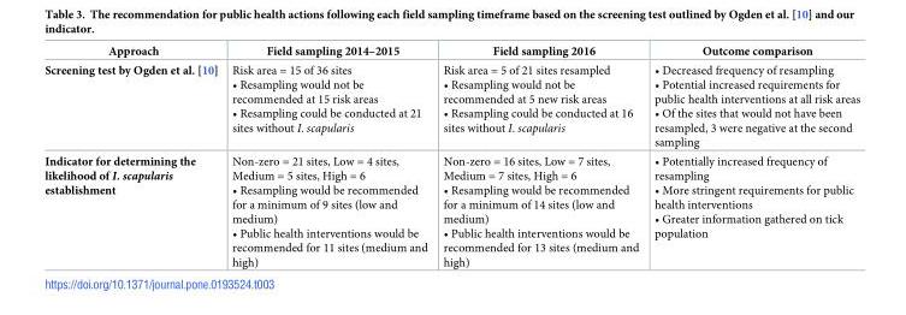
<table><thead><tr><td>Approach</td><td>Field sampling 2014–2015</td><td>Field sampling 2016</td><td>Outcome comparison</td></tr></thead><tbody><tr><td>Screening test by Ogden et al. [10]</td><td>Risk area = 15 of 36 sites • Resampling would not be recommended at 15 risk areas • Resampling could be conducted at 21 sites without I. scapularis</td><td>Risk area = 5 of 21 sites resampled • Resampling would not be recommended at 5 new risk areas • Resampling could be conducted at 16 sites without I. scapularis</td><td>• Decreased frequency of resampling • Potential increased requirements for public health interventions at all risk areas • Of the sites that would not have been resampled, 3 were negative at the second sampling</td></tr><tr><td>Indicator for determining the likelihood of I. scapularis establishment</td><td>Non-zero = 21 sites, Low = 4 sites, Medium = 5 sites, High = 6 • Resampling would be recommended for a minimum of 9 sites (low and medium) • Public health interventions would be recommended for 11 sites (medium and high)</td><td>Non-zero = 16 sites, Low = 7 sites, Medium = 7 sites, High = 6 • Resampling would be recommended for a minimum of 14 sites (low and medium) • Public health interventions would be recommended for 13 sites (medium and high)</td><td>• Potentially increased frequency of resampling • More stringent requirements for public health interventions • Greater information gathered on tick population</td></tr></tbody></table>